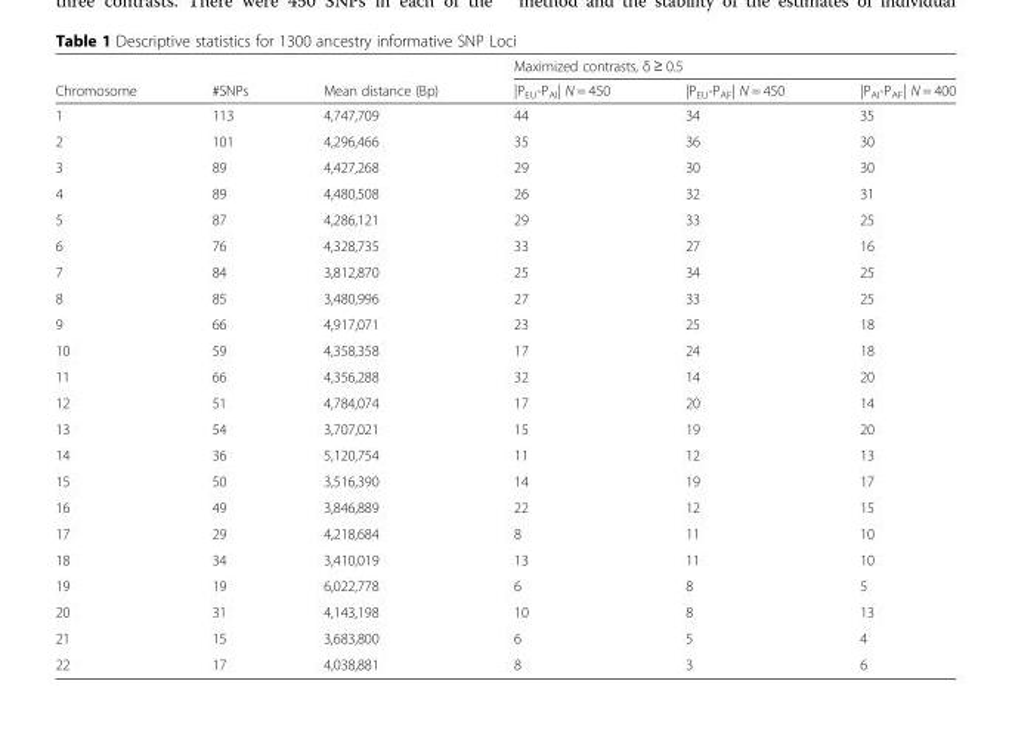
<table><thead><tr><td rowspan="2">Chromosome</td><td rowspan="2">#SNPs</td><td rowspan="2">Mean distance (Bp)</td><td colspan="3">Maximized contrasts, δ ≥ 0.5</td></tr><tr><td>|P<sub>EU</sub>-P<sub>AI</sub>| N = 450</td><td>|P<sub>EU</sub>-P<sub>AF</sub>| N = 450</td><td>|P<sub>AI</sub>-P<sub>AF</sub>| N = 400</td></tr></thead><tbody><tr><td>1</td><td>113</td><td>4,747,709</td><td>44</td><td>34</td><td>35</td></tr><tr><td>2</td><td>101</td><td>4,296,466</td><td>35</td><td>36</td><td>30</td></tr><tr><td>3</td><td>89</td><td>4,427,268</td><td>29</td><td>30</td><td>30</td></tr><tr><td>4</td><td>89</td><td>4,480,508</td><td>26</td><td>32</td><td>31</td></tr><tr><td>5</td><td>87</td><td>4,286,121</td><td>29</td><td>33</td><td>25</td></tr><tr><td>6</td><td>76</td><td>4,328,735</td><td>33</td><td>27</td><td>16</td></tr><tr><td>7</td><td>84</td><td>3,812,870</td><td>25</td><td>34</td><td>25</td></tr><tr><td>8</td><td>85</td><td>3,480,996</td><td>27</td><td>33</td><td>25</td></tr><tr><td>9</td><td>66</td><td>4,917,071</td><td>23</td><td>25</td><td>18</td></tr><tr><td>10</td><td>59</td><td>4,358,358</td><td>17</td><td>24</td><td>18</td></tr><tr><td>11</td><td>66</td><td>4,356,288</td><td>32</td><td>14</td><td>20</td></tr><tr><td>12</td><td>51</td><td>4,784,074</td><td>17</td><td>20</td><td>14</td></tr><tr><td>13</td><td>54</td><td>3,707,021</td><td>15</td><td>19</td><td>20</td></tr><tr><td>14</td><td>36</td><td>5,120,754</td><td>11</td><td>12</td><td>13</td></tr><tr><td>15</td><td>50</td><td>3,516,390</td><td>14</td><td>19</td><td>17</td></tr><tr><td>16</td><td>49</td><td>3,846,889</td><td>22</td><td>12</td><td>15</td></tr><tr><td>17</td><td>29</td><td>4,218,684</td><td>8</td><td>11</td><td>10</td></tr><tr><td>18</td><td>34</td><td>3,410,019</td><td>13</td><td>11</td><td>10</td></tr><tr><td>19</td><td>19</td><td>6,022,778</td><td>6</td><td>8</td><td>5</td></tr><tr><td>20</td><td>31</td><td>4,143,198</td><td>10</td><td>8</td><td>13</td></tr><tr><td>21</td><td>15</td><td>3,683,800</td><td>6</td><td>5</td><td>4</td></tr><tr><td>22</td><td>17</td><td>4,038,881</td><td>8</td><td>3</td><td>6</td></tr></tbody></table>